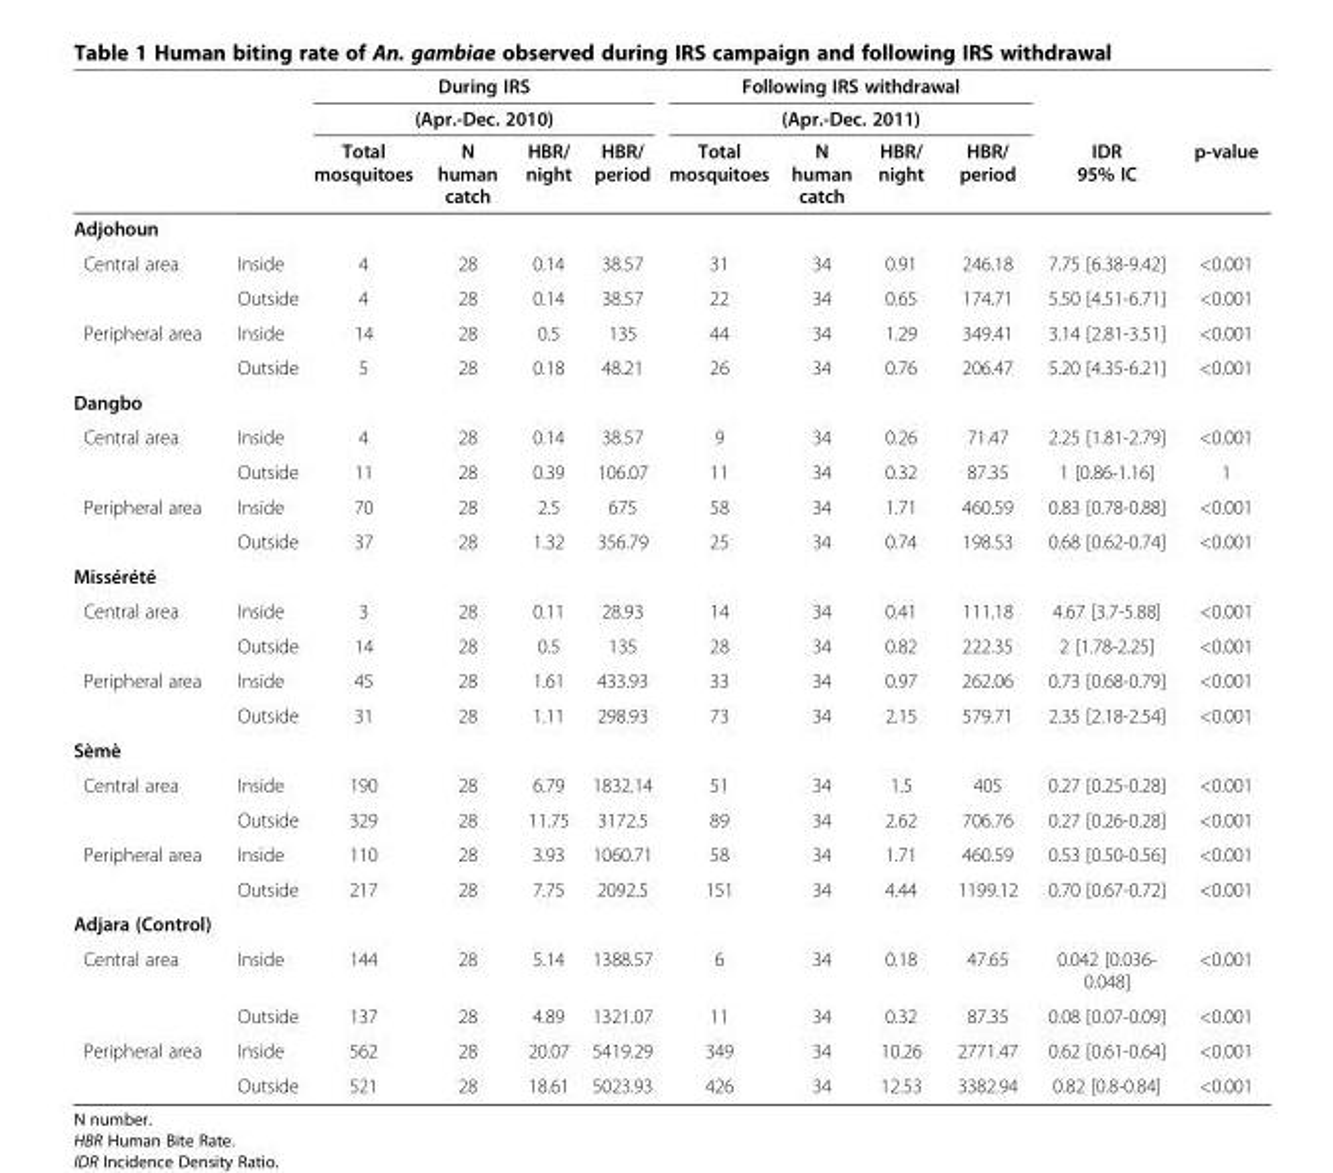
<table><thead><tr><td rowspan="3"></td><td rowspan="3"></td><td rowspan="2" colspan="4">During IRS (Apr.-Dec. 2010)</td><td rowspan="2" colspan="4">Following IRS withdrawal (Apr.-Dec. 2011)</td><td rowspan="3">IDR 95% IC</td><td rowspan="3">p-value</td></tr><tr></tr><tr><td>Total mosquitoes</td><td>N human catch</td><td>HBR/ night</td><td>HBR/ period</td><td>Total mosquitoes</td><td>N human catch</td><td>HBR/ night</td><td>HBR/ period</td></tr></thead><tbody><tr><td colspan="12">Adjohoun</td></tr><tr><td rowspan="2">Central area</td><td>Inside</td><td>4</td><td>28</td><td>0.14</td><td>38.57</td><td>31</td><td>34</td><td>0.91</td><td>246.18</td><td>7.75 [6.38-9.42]</td><td>&lt;0.001</td></tr><tr><td>Outside</td><td>4</td><td>28</td><td>0.14</td><td>38.57</td><td>22</td><td>34</td><td>0.65</td><td>174.71</td><td>5.50 [4.51-6.71]</td><td>&lt;0.001</td></tr><tr><td rowspan="2">Peripheral area</td><td>Inside</td><td>14</td><td>28</td><td>0.5</td><td>135</td><td>44</td><td>34</td><td>1.29</td><td>349.41</td><td>3.14 [2.81-3.51]</td><td>&lt;0.001</td></tr><tr><td>Outside</td><td>5</td><td>28</td><td>0.18</td><td>48.21</td><td>26</td><td>34</td><td>0.76</td><td>206.47</td><td>5.20 [4.35-6.21]</td><td>&lt;0.001</td></tr><tr><td colspan="12">Dangbo</td></tr><tr><td rowspan="2">Central area</td><td>Inside</td><td>4</td><td>28</td><td>0.14</td><td>38.57</td><td>9</td><td>34</td><td>0.26</td><td>71.47</td><td>2.25 [1.81-2.79]</td><td>&lt;0.001</td></tr><tr><td>Outside</td><td>11</td><td>28</td><td>0.39</td><td>106.07</td><td>11</td><td>34</td><td>0.32</td><td>87.35</td><td>1 [0.86-1.16]</td><td>1</td></tr><tr><td rowspan="2">Peripheral area</td><td>Inside</td><td>70</td><td>28</td><td>2.5</td><td>675</td><td>58</td><td>34</td><td>1.71</td><td>460.59</td><td>0.83 [0.78-0.88]</td><td>&lt;0.001</td></tr><tr><td>Outside</td><td>37</td><td>28</td><td>1.32</td><td>356.79</td><td>25</td><td>34</td><td>0.74</td><td>198.53</td><td>0.68 [0.62-0.74]</td><td>&lt;0.001</td></tr><tr><td colspan="12">Missérété</td></tr><tr><td rowspan="2">Central area</td><td>Inside</td><td>3</td><td>28</td><td>0.11</td><td>28.93</td><td>14</td><td>34</td><td>0.41</td><td>111.18</td><td>4.67 [3.7-5.88]</td><td>&lt;0.001</td></tr><tr><td>Outside</td><td>14</td><td>28</td><td>0.5</td><td>135</td><td>28</td><td>34</td><td>0.82</td><td>222.35</td><td>2 [1.78-2.25]</td><td>&lt;0.001</td></tr><tr><td rowspan="2">Peripheral area</td><td>Inside</td><td>45</td><td>28</td><td>1.61</td><td>433.93</td><td>33</td><td>34</td><td>0.97</td><td>262.06</td><td>0.73 [0.68-0.79]</td><td>&lt;0.001</td></tr><tr><td>Outside</td><td>31</td><td>28</td><td>1.11</td><td>298.93</td><td>73</td><td>34</td><td>2.15</td><td>579.71</td><td>2.35 [2.18-2.54]</td><td>&lt;0.001</td></tr><tr><td colspan="12">Sèmè</td></tr><tr><td rowspan="2">Central area</td><td>Inside</td><td>190</td><td>28</td><td>6.79</td><td>1832.14</td><td>51</td><td>34</td><td>1.5</td><td>405</td><td>0.27 [0.25-0.28]</td><td>&lt;0.001</td></tr><tr><td>Outside</td><td>329</td><td>28</td><td>11.75</td><td>3172.5</td><td>89</td><td>34</td><td>2.62</td><td>706.76</td><td>0.27 [0.26-0.28]</td><td>&lt;0.001</td></tr><tr><td rowspan="2">Peripheral area</td><td>Inside</td><td>110</td><td>28</td><td>3.93</td><td>1060.71</td><td>58</td><td>34</td><td>1.71</td><td>460.59</td><td>0.53 [0.50-0.56]</td><td>&lt;0.001</td></tr><tr><td>Outside</td><td>217</td><td>28</td><td>7.75</td><td>2092.5</td><td>151</td><td>34</td><td>4.44</td><td>1199.12</td><td>0.70 [0.67-0.72]</td><td>&lt;0.001</td></tr><tr><td colspan="12">Adjara (Control)</td></tr><tr><td rowspan="2">Central area</td><td>Inside</td><td>144</td><td>28</td><td>5.14</td><td>1388.57</td><td>6</td><td>34</td><td>0.18</td><td>47.65</td><td>0.042 [0.036- 0.048]</td><td>&lt;0.001</td></tr><tr><td>Outside</td><td>137</td><td>28</td><td>4.89</td><td>1321.07</td><td>11</td><td>34</td><td>0.32</td><td>87.35</td><td>0.08 [0.07-0.09]</td><td>&lt;0.001</td></tr><tr><td rowspan="2">Peripheral area</td><td>Inside</td><td>562</td><td>28</td><td>20.07</td><td>5419.29</td><td>349</td><td>34</td><td>10.26</td><td>2771.47</td><td>0.62 [0.61-0.64]</td><td>&lt;0.001</td></tr><tr><td>Outside</td><td>521</td><td>28</td><td>18.61</td><td>5023.93</td><td>426</td><td>34</td><td>12.53</td><td>3382.94</td><td>0.82 [0.8-0.84]</td><td>&lt;0.001</td></tr></tbody></table>